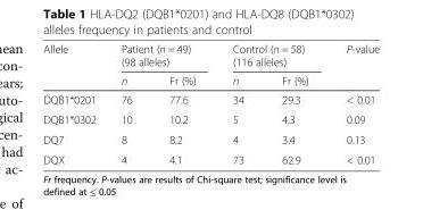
<table><thead><tr><td rowspan="2">Allele</td><td colspan="2">Patient (n = 49) (98 alleles)</td><td colspan="2">Control (n = 58) (116 alleles)</td><td rowspan="2">P-value</td></tr><tr><td>n</td><td>Fr (%)</td><td>n</td><td>Fr (%)</td></tr></thead><tbody><tr><td>DQB1*0201</td><td>76</td><td>77.6</td><td>34</td><td>29.3</td><td>&lt; 0.01</td></tr><tr><td>DQB1*0302</td><td>10</td><td>10.2</td><td>5</td><td>4.3</td><td>0.09</td></tr><tr><td>DQ7</td><td>8</td><td>8.2</td><td>4</td><td>3.4</td><td>0.13</td></tr><tr><td>DQX</td><td>4</td><td>4.1</td><td>73</td><td>62.9</td><td>&lt; 0.01</td></tr></tbody></table>